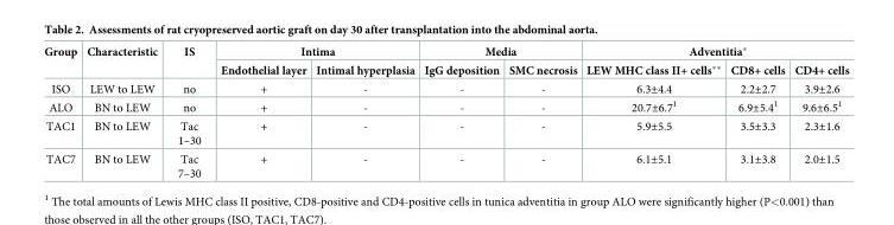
<table><thead><tr><td rowspan="2">Group</td><td rowspan="2">Characteristic</td><td rowspan="2">IS</td><td colspan="2">Intima</td><td colspan="2">Media</td><td colspan="3">Adventitia*</td></tr><tr><td>Endothelial layer</td><td>Intimal hyperplasia</td><td>IgG deposition</td><td>SMC necrosis</td><td>LEW MHC class II+ cells**</td><td>CD8+ cells</td><td>CD4+ cells</td></tr></thead><tbody><tr><td>ISO</td><td>LEW to LEW</td><td>no</td><td>+</td><td>-</td><td>-</td><td>-</td><td>6.3±4.4</td><td>2.2±2.7</td><td>3.9±2.6</td></tr><tr><td>ALO</td><td>BN to LEW</td><td>no</td><td>+</td><td>-</td><td>-</td><td>-</td><td>20.7±6.7<sup>1</sup></td><td>6.9±5.4<sup>1</sup></td><td>9.6±6.5<sup>1</sup></td></tr><tr><td>TAC1</td><td>BN to LEW</td><td>Tac 1–30</td><td>+</td><td>-</td><td>-</td><td>-</td><td>5.9±5.5</td><td>3.5±3.3</td><td>2.3±1.6</td></tr><tr><td>TAC7</td><td>BN to LEW</td><td>Tac 7–30</td><td>+</td><td>-</td><td>-</td><td>-</td><td>6.1±5.1</td><td>3.1±3.8</td><td>2.0±1.5</td></tr></tbody></table>